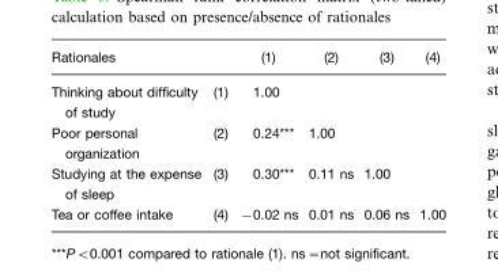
<table><thead><tr><td>Rationales</td><td></td><td>(1)</td><td>(2)</td><td>(3)</td><td>(4)</td></tr></thead><tbody><tr><td>Thinking about difficulty of study</td><td>(1)</td><td>1.00</td><td></td><td></td><td></td></tr><tr><td>Poor personal organization</td><td>(2)</td><td>0.24***</td><td>1.00</td><td></td><td></td></tr><tr><td>Studying at the expense of sleep</td><td>(3)</td><td>0.30***</td><td>0.11 ns</td><td>1.00</td><td></td></tr><tr><td>Tea or coffee intake</td><td>(4)</td><td>−0.02 ns</td><td>0.01 ns</td><td>0.06 ns</td><td>1.00</td></tr></tbody></table>